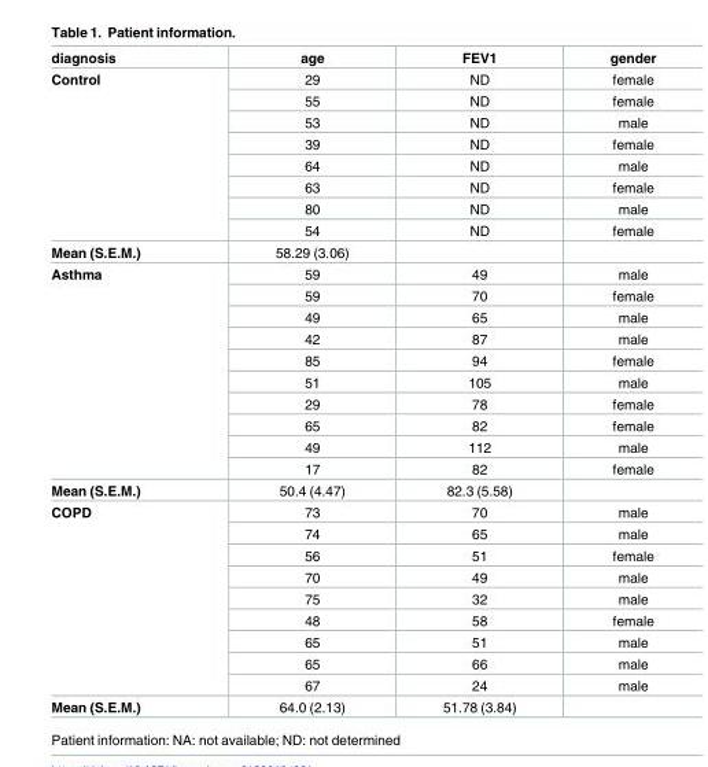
<table><thead><tr><td>diagnosis</td><td>age</td><td>FEV1</td><td>gender</td></tr></thead><tbody><tr><td rowspan="8">Control</td><td>29</td><td>ND</td><td>female</td></tr><tr><td>55</td><td>ND</td><td>female</td></tr><tr><td>53</td><td>ND</td><td>male</td></tr><tr><td>39</td><td>ND</td><td>female</td></tr><tr><td>64</td><td>ND</td><td>male</td></tr><tr><td>63</td><td>ND</td><td>female</td></tr><tr><td>80</td><td>ND</td><td>male</td></tr><tr><td>54</td><td>ND</td><td>female</td></tr><tr><td>Mean (S.E.M.)</td><td>58.29 (3.06)</td><td></td><td></td></tr><tr><td rowspan="10">Asthma</td><td>59</td><td>49</td><td>male</td></tr><tr><td>59</td><td>70</td><td>female</td></tr><tr><td>49</td><td>65</td><td>male</td></tr><tr><td>42</td><td>87</td><td>male</td></tr><tr><td>85</td><td>94</td><td>female</td></tr><tr><td>51</td><td>105</td><td>male</td></tr><tr><td>29</td><td>78</td><td>female</td></tr><tr><td>65</td><td>82</td><td>female</td></tr><tr><td>49</td><td>112</td><td>male</td></tr><tr><td>17</td><td>82</td><td>female</td></tr><tr><td>Mean (S.E.M.)</td><td>50.4 (4.47)</td><td>82.3 (5.58)</td><td></td></tr><tr><td rowspan="9">COPD</td><td>73</td><td>70</td><td>male</td></tr><tr><td>74</td><td>65</td><td>male</td></tr><tr><td>56</td><td>51</td><td>female</td></tr><tr><td>70</td><td>49</td><td>male</td></tr><tr><td>75</td><td>32</td><td>male</td></tr><tr><td>48</td><td>58</td><td>female</td></tr><tr><td>65</td><td>51</td><td>male</td></tr><tr><td>65</td><td>66</td><td>male</td></tr><tr><td>67</td><td>24</td><td>male</td></tr><tr><td>Mean (S.E.M.)</td><td>64.0 (2.13)</td><td>51.78 (3.84)</td><td></td></tr></tbody></table>